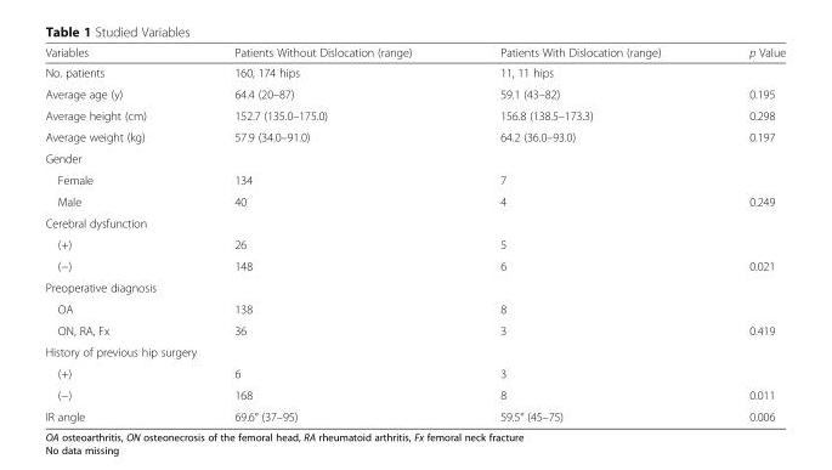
<table><thead><tr><td>Variables</td><td>Patients Without Dislocation (range)</td><td>Patients With Dislocation (range)</td><td>p Value</td></tr></thead><tbody><tr><td>No. patients</td><td>160, 174 hips</td><td>11, 11 hips</td><td></td></tr><tr><td>Average age (y)</td><td>64.4 (20–87)</td><td>59.1 (43–82)</td><td>0.195</td></tr><tr><td>Average height (cm)</td><td>152.7 (135.0–175.0)</td><td>156.8 (138.5–173.3)</td><td>0.298</td></tr><tr><td>Average weight (kg)</td><td>57.9 (34.0–91.0)</td><td>64.2 (36.0–93.0)</td><td>0.197</td></tr><tr><td colspan="4">Gender</td></tr><tr><td>Female</td><td>134</td><td>7</td><td></td></tr><tr><td>Male</td><td>40</td><td>4</td><td>0.249</td></tr><tr><td colspan="4">Cerebral dysfunction</td></tr><tr><td>(+)</td><td>26</td><td>5</td><td></td></tr><tr><td>(−)</td><td>148</td><td>6</td><td>0.021</td></tr><tr><td colspan="4">Preoperative diagnosis</td></tr><tr><td>OA</td><td>138</td><td>8</td><td></td></tr><tr><td>ON, RA, Fx</td><td>36</td><td>3</td><td>0.419</td></tr><tr><td colspan="4">History of previous hip surgery</td></tr><tr><td>(+)</td><td>6</td><td>3</td><td></td></tr><tr><td>(−)</td><td>168</td><td>8</td><td>0.011</td></tr><tr><td>IR angle</td><td>69.6° (37–95)</td><td>59.5° (45–75)</td><td>0.006</td></tr></tbody></table>